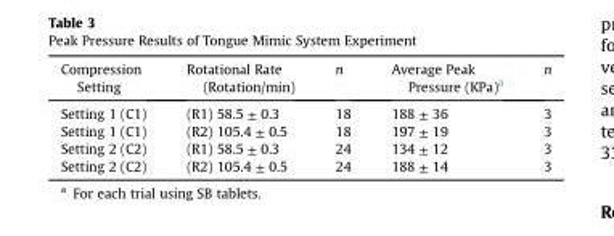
<table><thead><tr><td>Compression Setting</td><td>Rotational Rate (Rotation/min)</td><td>n</td><td>Average Peak Pressure (KPa)<sup>a</sup></td><td>n</td></tr></thead><tbody><tr><td>Setting 1 (C1)</td><td>(R1) 58.5 ± 0.3</td><td>18</td><td>188 ± 36</td><td>3</td></tr><tr><td>Setting 1 (C1)</td><td>(R2) 105.4 ± 0.5</td><td>18</td><td>197 ± 19</td><td>3</td></tr><tr><td>Setting 2 (C2)</td><td>(R1) 58.5 ± 0.3</td><td>24</td><td>134 ± 12</td><td>3</td></tr><tr><td>Setting 2 (C2)</td><td>(R2) 105.4 ± 0.5</td><td>24</td><td>188 ± 14</td><td>3</td></tr></tbody></table>